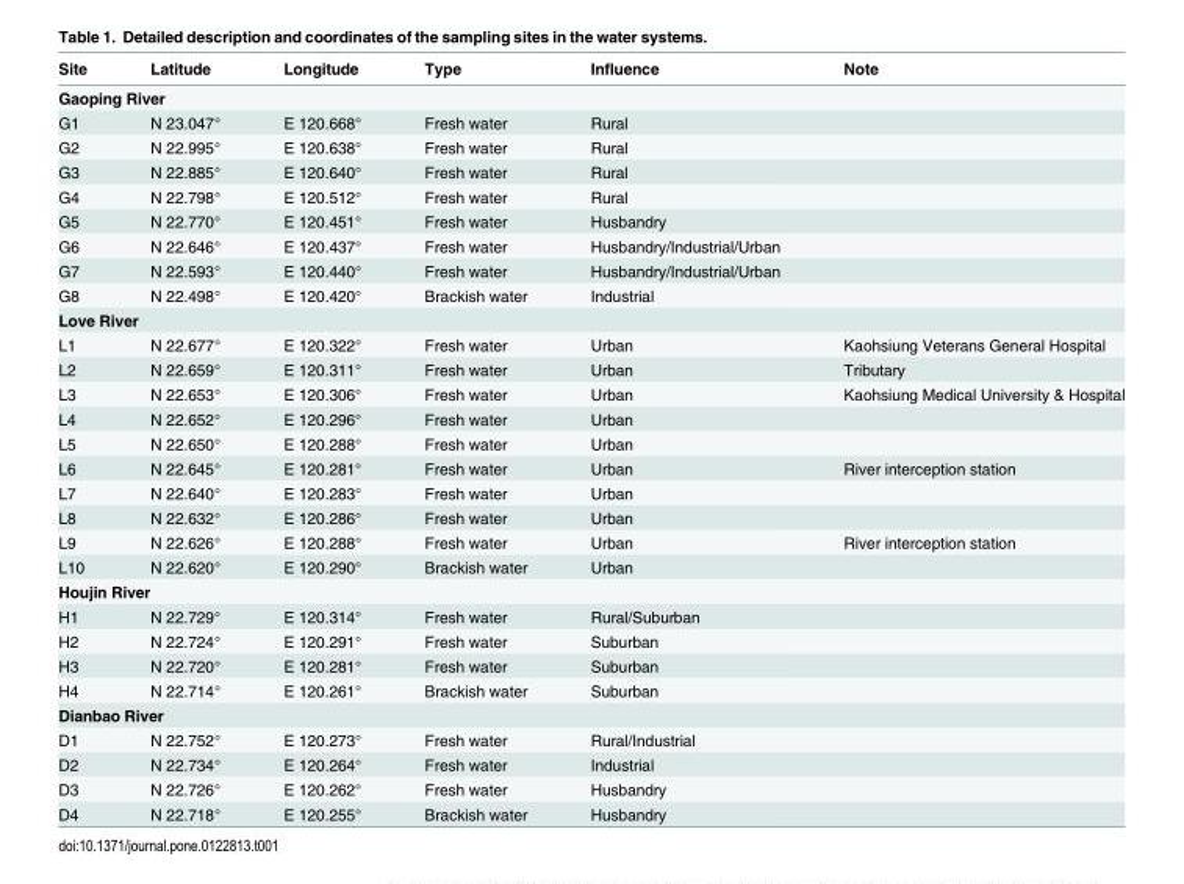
<table><thead><tr><td>Site</td><td>Latitude</td><td>Longitude</td><td>Type</td><td>Influence</td><td>Note</td></tr></thead><tbody><tr><td colspan="6">Gaoping River</td></tr><tr><td>G1</td><td>N 23.047°</td><td>E 120.668°</td><td>Fresh water</td><td>Rural</td><td></td></tr><tr><td>G2</td><td>N 22.995°</td><td>E 120.638°</td><td>Fresh water</td><td>Rural</td><td></td></tr><tr><td>G3</td><td>N 22.885°</td><td>E 120.640°</td><td>Fresh water</td><td>Rural</td><td></td></tr><tr><td>G4</td><td>N 22.798°</td><td>E 120.512°</td><td>Fresh water</td><td>Rural</td><td></td></tr><tr><td>G5</td><td>N 22.770°</td><td>E 120.451°</td><td>Fresh water</td><td>Husbandry</td><td></td></tr><tr><td>G6</td><td>N 22.646°</td><td>E 120.437°</td><td>Fresh water</td><td>Husbandry/Industrial/Urban</td><td></td></tr><tr><td>G7</td><td>N 22.593°</td><td>E 120.440°</td><td>Fresh water</td><td>Husbandry/Industrial/Urban</td><td></td></tr><tr><td>G8</td><td>N 22.498°</td><td>E 120.420°</td><td>Brackish water</td><td>Industrial</td><td></td></tr><tr><td colspan="6">Love River</td></tr><tr><td>L1</td><td>N 22.677°</td><td>E 120.322°</td><td>Fresh water</td><td>Urban</td><td>Kaohsiung Veterans General Hospital</td></tr><tr><td>L2</td><td>N 22.659°</td><td>E 120.311°</td><td>Fresh water</td><td>Urban</td><td>Tributary</td></tr><tr><td>L3</td><td>N 22.653°</td><td>E 120.306°</td><td>Fresh water</td><td>Urban</td><td>Kaohsiung Medical University &amp; Hospital</td></tr><tr><td>L4</td><td>N 22.652°</td><td>E 120.296°</td><td>Fresh water</td><td>Urban</td><td></td></tr><tr><td>L5</td><td>N 22.650°</td><td>E 120.288°</td><td>Fresh water</td><td>Urban</td><td></td></tr><tr><td>L6</td><td>N 22.645°</td><td>E 120.281°</td><td>Fresh water</td><td>Urban</td><td>River interception station</td></tr><tr><td>L7</td><td>N 22.640°</td><td>E 120.283°</td><td>Fresh water</td><td>Urban</td><td></td></tr><tr><td>L8</td><td>N 22.632°</td><td>E 120.286°</td><td>Fresh water</td><td>Urban</td><td></td></tr><tr><td>L9</td><td>N 22.626°</td><td>E 120.288°</td><td>Fresh water</td><td>Urban</td><td>River interception station</td></tr><tr><td>L10</td><td>N 22.620°</td><td>E 120.290°</td><td>Brackish water</td><td>Urban</td><td></td></tr><tr><td colspan="6">Houjin River</td></tr><tr><td>H1</td><td>N 22.729°</td><td>E 120.314°</td><td>Fresh water</td><td>Rural/Suburban</td><td></td></tr><tr><td>H2</td><td>N 22.724°</td><td>E 120.291°</td><td>Fresh water</td><td>Suburban</td><td></td></tr><tr><td>H3</td><td>N 22.720°</td><td>E 120.281°</td><td>Fresh water</td><td>Suburban</td><td></td></tr><tr><td>H4</td><td>N 22.714°</td><td>E 120.261°</td><td>Brackish water</td><td>Suburban</td><td></td></tr><tr><td colspan="6">Dianbao River</td></tr><tr><td>D1</td><td>N 22.752°</td><td>E 120.273°</td><td>Fresh water</td><td>Rural/Industrial</td><td></td></tr><tr><td>D2</td><td>N 22.734°</td><td>E 120.264°</td><td>Fresh water</td><td>Industrial</td><td></td></tr><tr><td>D3</td><td>N 22.726°</td><td>E 120.262°</td><td>Fresh water</td><td>Husbandry</td><td></td></tr><tr><td>D4</td><td>N 22.718°</td><td>E 120.255°</td><td>Brackish water</td><td>Husbandry</td><td></td></tr></tbody></table>